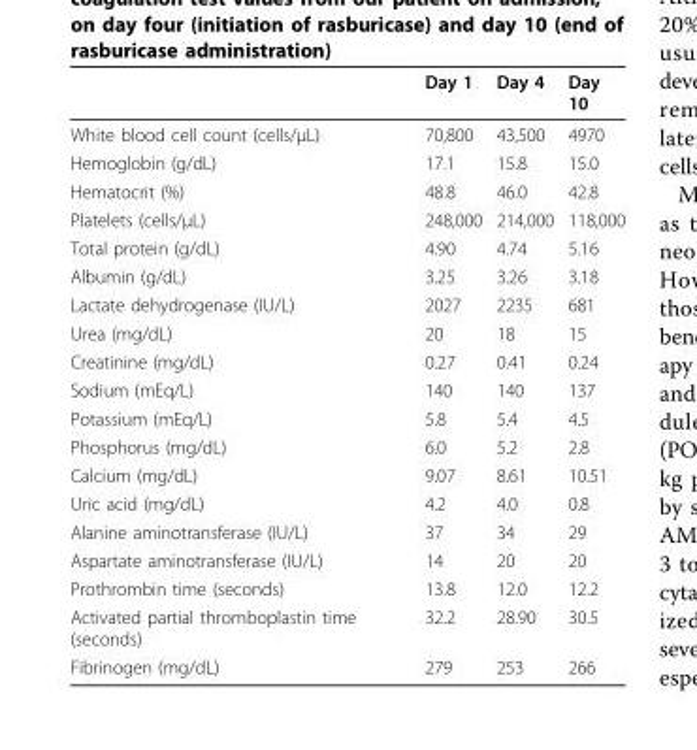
<table><thead><tr><td></td><td>Day 1</td><td>Day 4</td><td>Day 10</td></tr></thead><tbody><tr><td>White blood cell count (cells/μL)</td><td>70,800</td><td>43,500</td><td>4970</td></tr><tr><td>Hemoglobin (g/dL)</td><td>17.1</td><td>15.8</td><td>15.0</td></tr><tr><td>Hematocrit (%)</td><td>48.8</td><td>46.0</td><td>42.8</td></tr><tr><td>Platelets (cells/μL)</td><td>248,000</td><td>214,000</td><td>118,000</td></tr><tr><td>Total protein (g/dL)</td><td>4.90</td><td>4.74</td><td>5.16</td></tr><tr><td>Albumin (g/dL)</td><td>3.25</td><td>3.26</td><td>3.18</td></tr><tr><td>Lactate dehydrogenase (IU/L)</td><td>2027</td><td>2235</td><td>681</td></tr><tr><td>Urea (mg/dL)</td><td>20</td><td>18</td><td>15</td></tr><tr><td>Creatinine (mg/dL)</td><td>0.27</td><td>0.41</td><td>0.24</td></tr><tr><td>Sodium (mEq/L)</td><td>140</td><td>140</td><td>137</td></tr><tr><td>Potassium (mEq/L)</td><td>5.8</td><td>5.4</td><td>4.5</td></tr><tr><td>Phosphorus (mg/dL)</td><td>6.0</td><td>5.2</td><td>2.8</td></tr><tr><td>Calcium (mg/dL)</td><td>9.07</td><td>8.61</td><td>10.51</td></tr><tr><td>Uric acid (mg/dL)</td><td>4.2</td><td>4.0</td><td>0.8</td></tr><tr><td>Alanine aminotransferase (IU/L)</td><td>37</td><td>34</td><td>29</td></tr><tr><td>Aspartate aminotransferase (IU/L)</td><td>14</td><td>20</td><td>20</td></tr><tr><td>Prothrombin time (seconds)</td><td>13.8</td><td>12.0</td><td>12.2</td></tr><tr><td>Activated partial thromboplastin time (seconds)</td><td>32.2</td><td>28.90</td><td>30.5</td></tr><tr><td>Fibrinogen (mg/dL)</td><td>279</td><td>253</td><td>266</td></tr></tbody></table>